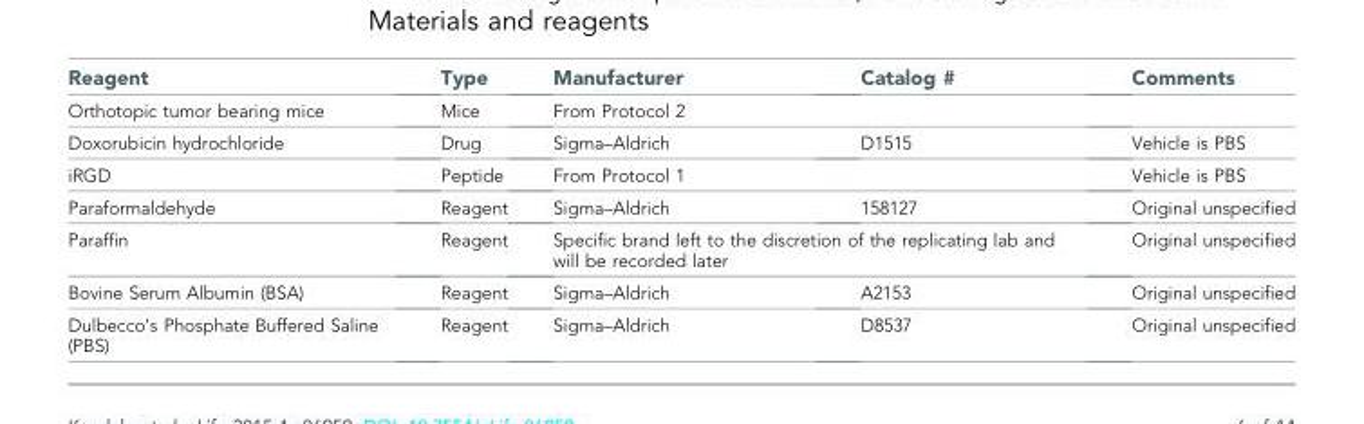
<table><thead><tr><td>Reagent</td><td>Type</td><td>Manufacturer</td><td>Catalog #</td><td>Comments</td></tr></thead><tbody><tr><td>Orthotopic tumor bearing mice</td><td>Mice</td><td colspan="2">From Protocol 2</td><td></td></tr><tr><td>Doxorubicin hydrochloride</td><td>Drug</td><td>Sigma–Aldrich</td><td>D1515</td><td>Vehicle is PBS</td></tr><tr><td>iRGD</td><td>Peptide</td><td colspan="2">From Protocol 1</td><td>Vehicle is PBS</td></tr><tr><td>Paraformaldehyde</td><td>Reagent</td><td>Sigma–Aldrich</td><td>158127</td><td>Original unspecified</td></tr><tr><td>Paraffin</td><td>Reagent</td><td colspan="2">Specific brand left to the discretion of the replicating lab and will be recorded later</td><td>Original unspecified</td></tr><tr><td>Bovine Serum Albumin (BSA)</td><td>Reagent</td><td>Sigma–Aldrich</td><td>A2153</td><td>Original unspecified</td></tr><tr><td>Dulbecco’s Phosphate Buffered Saline (PBS)</td><td>Reagent</td><td>Sigma–Aldrich</td><td>D8537</td><td>Original unspecified</td></tr></tbody></table>